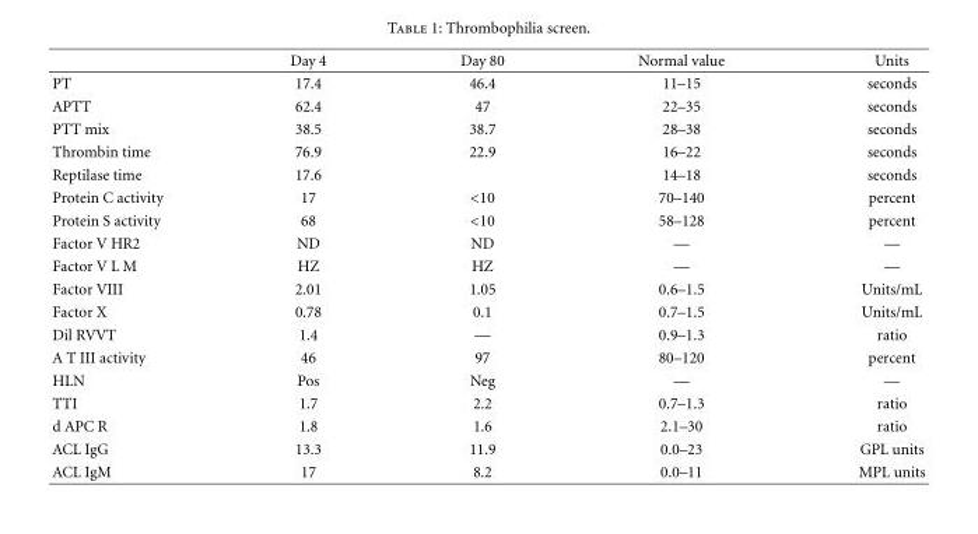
<table><thead><tr><td></td><td>Day 4</td><td>Day 80</td><td>Normal value</td><td>Units</td></tr></thead><tbody><tr><td>PT</td><td>17.4</td><td>46.4</td><td>11–15</td><td>seconds</td></tr><tr><td>APTT</td><td>62.4</td><td>47</td><td>22–35</td><td>seconds</td></tr><tr><td>PTT mix</td><td>38.5</td><td>38.7</td><td>28–38</td><td>seconds</td></tr><tr><td>Thrombin time</td><td>76.9</td><td>22.9</td><td>16–22</td><td>seconds</td></tr><tr><td>Reptilase time</td><td>17.6</td><td></td><td>14–18</td><td>seconds</td></tr><tr><td>Protein C activity</td><td>17</td><td>&lt;10</td><td>70–140</td><td>percent</td></tr><tr><td>Protein S activity</td><td>68</td><td>&lt;10</td><td>58–128</td><td>percent</td></tr><tr><td>Factor V HR2</td><td>ND</td><td>ND</td><td>—</td><td>—</td></tr><tr><td>Factor V L M</td><td>HZ</td><td>HZ</td><td>—</td><td>—</td></tr><tr><td>Factor VIII</td><td>2.01</td><td>1.05</td><td>0.6–1.5</td><td>Units/mL</td></tr><tr><td>Factor X</td><td>0.78</td><td>0.1</td><td>0.7–1.5</td><td>Units/mL</td></tr><tr><td>Dil RVVT</td><td>1.4</td><td>—</td><td>0.9–1.3</td><td>ratio</td></tr><tr><td>A T III activity</td><td>46</td><td>97</td><td>80–120</td><td>percent</td></tr><tr><td>HLN</td><td>Pos</td><td>Neg</td><td>—</td><td>—</td></tr><tr><td>TTI</td><td>1.7</td><td>2.2</td><td>0.7–1.3</td><td>ratio</td></tr><tr><td>d APC R</td><td>1.8</td><td>1.6</td><td>2.1–30</td><td>ratio</td></tr><tr><td>ACL IgG</td><td>13.3</td><td>11.9</td><td>0.0–23</td><td>GPL units</td></tr><tr><td>ACL IgM</td><td>17</td><td>8.2</td><td>0.0–11</td><td>MPL units</td></tr></tbody></table>